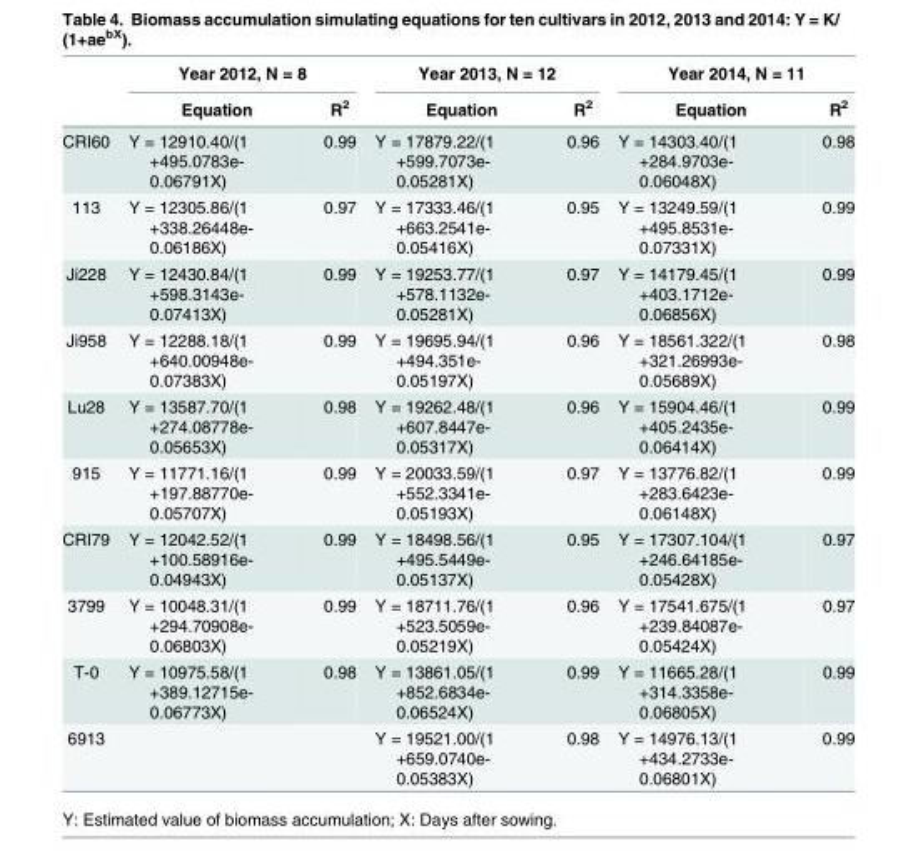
<table><thead><tr><td rowspan="2"></td><td colspan="2">Year 2012, N = 8</td><td colspan="2">Year 2013, N = 12</td><td colspan="2">Year 2014, N = 11</td></tr><tr><td>Equation</td><td>R<sup>2</sup></td><td>Equation</td><td>R<sup>2</sup></td><td>Equation</td><td>R<sup>2</sup></td></tr></thead><tbody><tr><td>CRI60</td><td>Y = 12910.40/(1 +495.0783e- 0.06791X)</td><td>0.99</td><td>Y = 17879.22/(1 +599.7073e- 0.05281X)</td><td>0.96</td><td>Y = 14303.40/(1 +284.9703e- 0.06048X)</td><td>0.98</td></tr><tr><td>113</td><td>Y = 12305.86/(1 +338.26448e- 0.06186X)</td><td>0.97</td><td>Y = 17333.46/(1 +663.2541e- 0.05416X)</td><td>0.95</td><td>Y = 13249.59/(1 +495.8531e- 0.07331X)</td><td>0.99</td></tr><tr><td>Ji228</td><td>Y = 12430.84/(1 +598.3143e- 0.07413X)</td><td>0.99</td><td>Y = 19253.77/(1 +578.1132e- 0.05281X)</td><td>0.97</td><td>Y = 14179.45/(1 +403.1712e- 0.06856X)</td><td>0.99</td></tr><tr><td>Ji958</td><td>Y = 12288.18/(1 +640.00948e- 0.07383X)</td><td>0.99</td><td>Y = 19695.94/(1 +494.351e- 0.05197X)</td><td>0.96</td><td>Y = 18561.322/(1 +321.26993e- 0.05689X)</td><td>0.98</td></tr><tr><td>Lu28</td><td>Y = 13587.70/(1 +274.08778e- 0.05653X)</td><td>0.98</td><td>Y = 19262.48/(1 +607.8447e- 0.05317X)</td><td>0.96</td><td>Y = 15904.46/(1 +405.2435e- 0.06414X)</td><td>0.99</td></tr><tr><td>915</td><td>Y = 11771.16/(1 +197.88770e- 0.05707X)</td><td>0.99</td><td>Y = 20033.59/(1 +552.3341e- 0.05193X)</td><td>0.97</td><td>Y = 13776.82/(1 +283.6423e- 0.06148X)</td><td>0.99</td></tr><tr><td>CRI79</td><td>Y = 12042.52/(1 +100.58916e- 0.04943X)</td><td>0.99</td><td>Y = 18498.56/(1 +495.5449e- 0.05137X)</td><td>0.95</td><td>Y = 17307.104/(1 +246.64185e- 0.05428X)</td><td>0.97</td></tr><tr><td>3799</td><td>Y = 10048.31/(1 +294.70908e- 0.06803X)</td><td>0.99</td><td>Y = 18711.76/(1 +523.5059e- 0.05219X)</td><td>0.96</td><td>Y = 17541.675/(1 +239.84087e- 0.05424X)</td><td>0.97</td></tr><tr><td>T-0</td><td>Y = 10975.58/(1 +389.12715e- 0.06773X)</td><td>0.98</td><td>Y = 13861.05/(1 +852.6834e- 0.06524X)</td><td>0.99</td><td>Y = 11665.28/(1 +314.3358e- 0.06805X)</td><td>0.99</td></tr><tr><td>6913</td><td></td><td></td><td>Y = 19521.00/(1 +659.0740e- 0.05383X)</td><td>0.98</td><td>Y = 14976.13/(1 +434.2733e- 0.06801X)</td><td>0.99</td></tr></tbody></table>